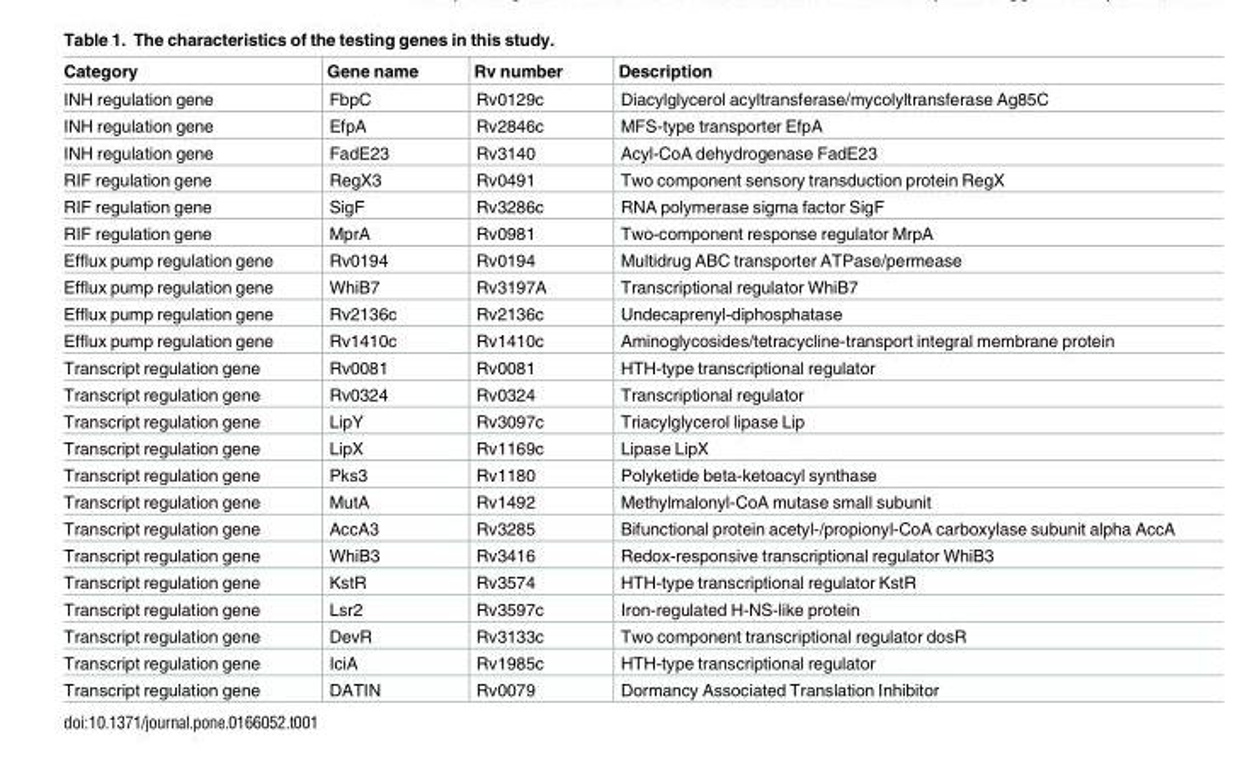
<table><thead><tr><td>Category</td><td>Gene name</td><td>Rv number</td><td>Description</td></tr></thead><tbody><tr><td>INH regulation gene</td><td>FbpC</td><td>Rv0129c</td><td>Diacylglycerol acyltransferase/mycolyltransferase Ag85C</td></tr><tr><td>INH regulation gene</td><td>EfpA</td><td>Rv2846c</td><td>MFS-type transporter EfpA</td></tr><tr><td>INH regulation gene</td><td>FadE23</td><td>Rv3140</td><td>Acyl-CoA dehydrogenase FadE23</td></tr><tr><td>RIF regulation gene</td><td>RegX3</td><td>Rv0491</td><td>Two component sensory transduction protein RegX</td></tr><tr><td>RIF regulation gene</td><td>SigF</td><td>Rv3286c</td><td>RNA polymerase sigma factor SigF</td></tr><tr><td>RIF regulation gene</td><td>MprA</td><td>Rv0981</td><td>Two-component response regulator MrpA</td></tr><tr><td>Efflux pump regulation gene</td><td>Rv0194</td><td>Rv0194</td><td>Multidrug ABC transporter ATPase/permease</td></tr><tr><td>Efflux pump regulation gene</td><td>WhiB7</td><td>Rv3197A</td><td>Transcriptional regulator WhiB7</td></tr><tr><td>Efflux pump regulation gene</td><td>Rv2136c</td><td>Rv2136c</td><td>Undecaprenyl-diphosphatase</td></tr><tr><td>Efflux pump regulation gene</td><td>Rv1410c</td><td>Rv1410c</td><td>Aminoglycosides/tetracycline-transport integral membrane protein</td></tr><tr><td>Transcript regulation gene</td><td>Rv0081</td><td>Rv0081</td><td>HTH-type transcriptional regulator</td></tr><tr><td>Transcript regulation gene</td><td>Rv0324</td><td>Rv0324</td><td>Transcriptional regulator</td></tr><tr><td>Transcript regulation gene</td><td>LipY</td><td>Rv3097c</td><td>Triacylglycerol lipase Lip</td></tr><tr><td>Transcript regulation gene</td><td>LipX</td><td>Rv1169c</td><td>Lipase LipX</td></tr><tr><td>Transcript regulation gene</td><td>Pks3</td><td>Rv1180</td><td>Polyketide beta-ketoacyl synthase</td></tr><tr><td>Transcript regulation gene</td><td>MutA</td><td>Rv1492</td><td>Methylmalonyl-CoA mutase small subunit</td></tr><tr><td>Transcript regulation gene</td><td>AccA3</td><td>Rv3285</td><td>Bifunctional protein acetyl-/propionyl-CoA carboxylase subunit alpha AccA</td></tr><tr><td>Transcript regulation gene</td><td>WhiB3</td><td>Rv3416</td><td>Redox-responsive transcriptional regulator WhiB3</td></tr><tr><td>Transcript regulation gene</td><td>KstR</td><td>Rv3574</td><td>HTH-type transcriptional regulator KstR</td></tr><tr><td>Transcript regulation gene</td><td>Lsr2</td><td>Rv3597c</td><td>Iron-regulated H-NS-like protein</td></tr><tr><td>Transcript regulation gene</td><td>DevR</td><td>Rv3133c</td><td>Two component transcriptional regulator dosR</td></tr><tr><td>Transcript regulation gene</td><td>IciA</td><td>Rv1985c</td><td>HTH-type transcriptional regulator</td></tr><tr><td>Transcript regulation gene</td><td>DATIN</td><td>Rv0079</td><td>Dormancy Associated Translation Inhibitor</td></tr></tbody></table>